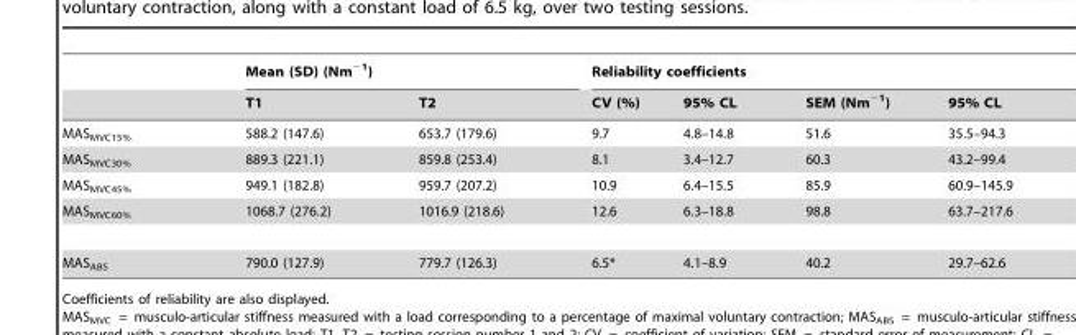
<table><thead><tr><td rowspan="2"></td><td colspan="2">Mean (SD) (Nm<sup>−1</sup>)</td><td colspan="4">Reliability coefficients</td></tr><tr><td>T1</td><td>T2</td><td>CV (%)</td><td>95% CL</td><td>SEM (Nm<sup>−1</sup>)</td><td>95% CL</td></tr></thead><tbody><tr><td>MAS<sub>MVC15%</sub></td><td>588.2 (147.6)</td><td>653.7 (179.6)</td><td>9.7</td><td>4.8–14.8</td><td>51.6</td><td>35.5–94.3</td></tr><tr><td>MAS<sub>MVC30%</sub></td><td>889.3 (221.1)</td><td>859.8 (253.4)</td><td>8.1</td><td>3.4–12.7</td><td>60.3</td><td>43.2–99.4</td></tr><tr><td>MAS<sub>MVC45%</sub></td><td>949.1 (182.8)</td><td>959.7 (207.2)</td><td>10.9</td><td>6.4–15.5</td><td>85.9</td><td>60.9–145.9</td></tr><tr><td>MAS<sub>MVC60%</sub></td><td>1068.7 (276.2)</td><td>1016.9 (218.6)</td><td>12.6</td><td>6.3–18.8</td><td>98.8</td><td>63.7–217.6</td></tr><tr><td>MAS<sub>ABS</sub></td><td>790.0 (127.9)</td><td>779.7 (126.3)</td><td>6.5*</td><td>4.1–8.9</td><td>40.2</td><td>29.7–62.6</td></tr></tbody></table>